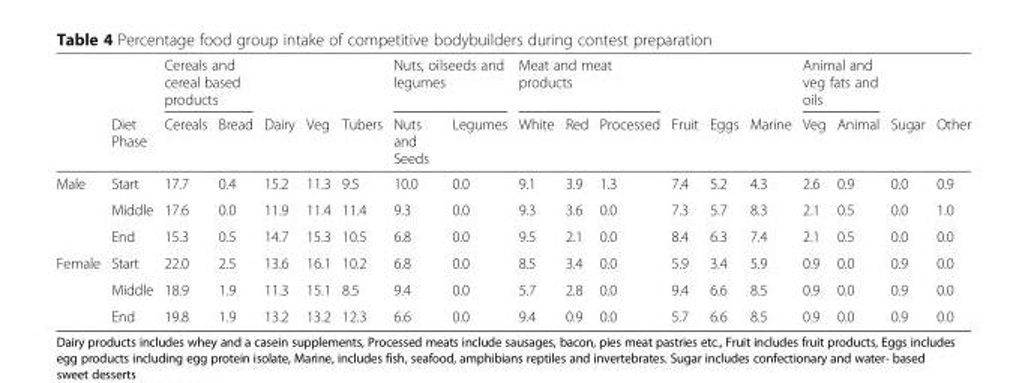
<table><thead><tr><td rowspan="2"></td><td rowspan="2">Diet Phase</td><td colspan="2">Cereals and cereal based products</td><td rowspan="2">Dairy</td><td rowspan="2">Veg</td><td rowspan="2">Tubers</td><td colspan="2">Nuts, oilseeds and legumes</td><td colspan="3">Meat and meat products</td><td rowspan="2">Fruit</td><td rowspan="2">Eggs</td><td rowspan="2">Marine</td><td colspan="2">Animal and veg fats and oils</td><td rowspan="2">Sugar</td><td rowspan="2">Other</td></tr><tr><td>Cereals</td><td>Bread</td><td>Nuts and Seeds</td><td>Legumes</td><td>White</td><td>Red</td><td>Processed</td><td>Veg</td><td>Animal</td></tr></thead><tbody><tr><td rowspan="3">Male</td><td>Start</td><td>17.7</td><td>0.4</td><td>15.2</td><td>11.3</td><td>9.5</td><td>10.0</td><td>0.0</td><td>9.1</td><td>3.9</td><td>1.3</td><td>7.4</td><td>5.2</td><td>4.3</td><td>2.6</td><td>0.9</td><td>0.0</td><td>0.9</td></tr><tr><td>Middle</td><td>17.6</td><td>0.0</td><td>11.9</td><td>11.4</td><td>11.4</td><td>9.3</td><td>0.0</td><td>9.3</td><td>3.6</td><td>0.0</td><td>7.3</td><td>5.7</td><td>8.3</td><td>2.1</td><td>0.5</td><td>0.0</td><td>1.0</td></tr><tr><td>End</td><td>15.3</td><td>0.5</td><td>14.7</td><td>15.3</td><td>10.5</td><td>6.8</td><td>0.0</td><td>9.5</td><td>2.1</td><td>0.0</td><td>8.4</td><td>6.3</td><td>7.4</td><td>2.1</td><td>0.5</td><td>0.0</td><td>0.0</td></tr><tr><td rowspan="3">Female</td><td>Start</td><td>22.0</td><td>2.5</td><td>13.6</td><td>16.1</td><td>10.2</td><td>6.8</td><td>0.0</td><td>8.5</td><td>3.4</td><td>0.0</td><td>5.9</td><td>3.4</td><td>5.9</td><td>0.9</td><td>0.0</td><td>0.9</td><td>0.0</td></tr><tr><td>Middle</td><td>18.9</td><td>1.9</td><td>11.3</td><td>15.1</td><td>8.5</td><td>9.4</td><td>0.0</td><td>5.7</td><td>2.8</td><td>0.0</td><td>9.4</td><td>6.6</td><td>8.5</td><td>0.9</td><td>0.0</td><td>0.9</td><td>0.0</td></tr><tr><td>End</td><td>19.8</td><td>1.9</td><td>13.2</td><td>13.2</td><td>12.3</td><td>6.6</td><td>0.0</td><td>9.4</td><td>0.9</td><td>0.0</td><td>5.7</td><td>6.6</td><td>8.5</td><td>0.9</td><td>0.0</td><td>0.9</td><td>0.0</td></tr></tbody></table>